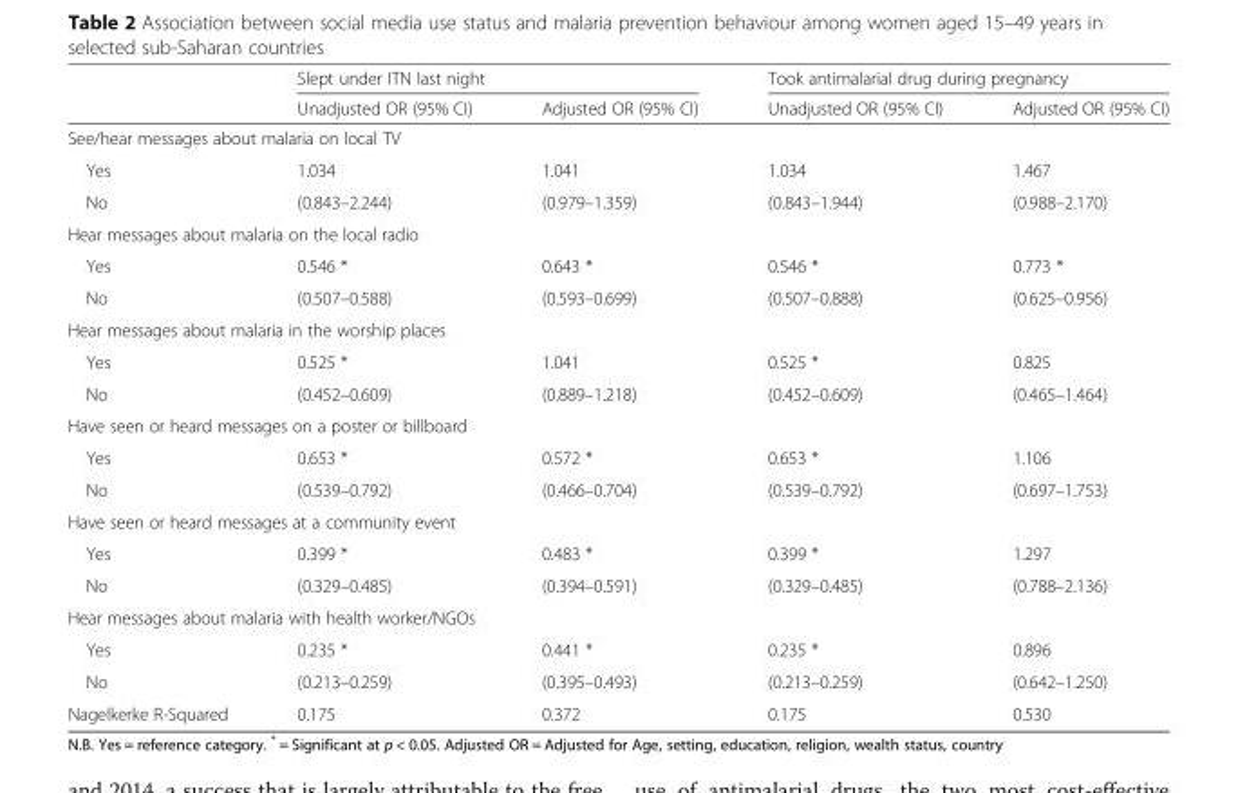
<table><thead><tr><td rowspan="2"></td><td colspan="2">Slept under ITN last night</td><td colspan="2">Took antimalarial drug during pregnancy</td></tr><tr><td>Unadjusted OR (95% CI)</td><td>Adjusted OR (95% CI)</td><td>Unadjusted OR (95% CI)</td><td>Adjusted OR (95% CI)</td></tr></thead><tbody><tr><td colspan="5">See/hear messages about malaria on local TV</td></tr><tr><td>Yes</td><td>1.034</td><td>1.041</td><td>1.034</td><td>1.467</td></tr><tr><td>No</td><td>(0.843–2.244)</td><td>(0.979–1.359)</td><td>(0.843–1.944)</td><td>(0.988–2.170)</td></tr><tr><td colspan="5">Hear messages about malaria on the local radio</td></tr><tr><td>Yes</td><td>0.546 *</td><td>0.643 *</td><td>0.546 *</td><td>0.773 *</td></tr><tr><td>No</td><td>(0.507–0.588)</td><td>(0.593–0.699)</td><td>(0.507–0.888)</td><td>(0.625–0.956)</td></tr><tr><td colspan="5">Hear messages about malaria in the worship places</td></tr><tr><td>Yes</td><td>0.525 *</td><td>1.041</td><td>0.525 *</td><td>0.825</td></tr><tr><td>No</td><td>(0.452–0.609)</td><td>(0.889–1.218)</td><td>(0.452–0.609)</td><td>(0.465–1.464)</td></tr><tr><td colspan="5">Have seen or heard messages on a poster or billboard</td></tr><tr><td>Yes</td><td>0.653 *</td><td>0.572 *</td><td>0.653 *</td><td>1.106</td></tr><tr><td>No</td><td>(0.539–0.792)</td><td>(0.466–0.704)</td><td>(0.539–0.792)</td><td>(0.697–1.753)</td></tr><tr><td colspan="5">Have seen or heard messages at a community event</td></tr><tr><td>Yes</td><td>0.399 *</td><td>0.483 *</td><td>0.399 *</td><td>1.297</td></tr><tr><td>No</td><td>(0.329–0.485)</td><td>(0.394–0.591)</td><td>(0.329–0.485)</td><td>(0.788–2.136)</td></tr><tr><td colspan="5">Hear messages about malaria with health worker/NGOs</td></tr><tr><td>Yes</td><td>0.235 *</td><td>0.441 *</td><td>0.235 *</td><td>0.896</td></tr><tr><td>No</td><td>(0.213–0.259)</td><td>(0.395–0.493)</td><td>(0.213–0.259)</td><td>(0.642–1.250)</td></tr><tr><td>Nagelkerke R-Squared</td><td>0.175</td><td>0.372</td><td>0.175</td><td>0.530</td></tr></tbody></table>